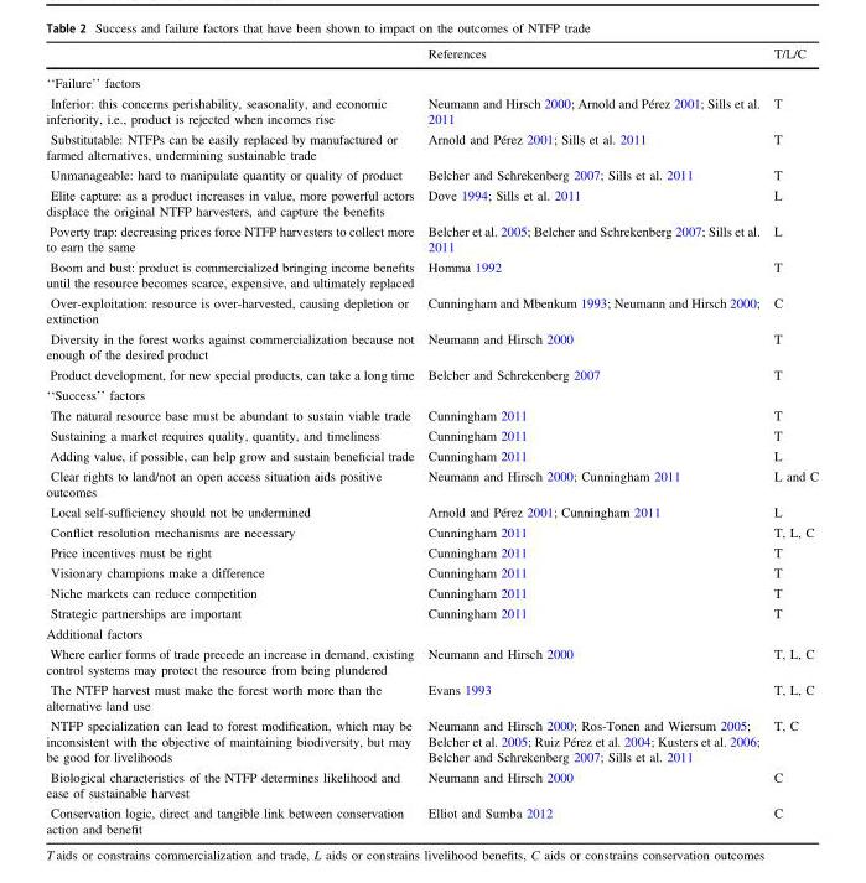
<table><thead><tr><td></td><td>References</td><td>T/L/C</td></tr></thead><tbody><tr><td colspan="3">‘‘Failure’’ factors</td></tr><tr><td>Inferior: this concerns perishability, seasonality, and economic inferiority, i.e., product is rejected when incomes rise</td><td>Neumann and Hirsch 2000; Arnold and Pérez 2001; Sills et al. 2011</td><td>T</td></tr><tr><td>Substitutable: NTFPs can be easily replaced by manufactured or farmed alternatives, undermining sustainable trade</td><td>Arnold and Pérez 2001; Sills et al. 2011</td><td>T</td></tr><tr><td>Unmanageable: hard to manipulate quantity or quality of product</td><td>Belcher and Schrekenberg 2007; Sills et al. 2011</td><td>T</td></tr><tr><td>Elite capture: as a product increases in value, more powerful actors displace the original NTFP harvesters, and capture the benefits</td><td>Dove 1994; Sills et al. 2011</td><td>L</td></tr><tr><td>Poverty trap: decreasing prices force NTFP harvesters to collect more to earn the same</td><td>Belcher et al. 2005; Belcher and Schrekenberg 2007; Sills et al. 2011</td><td>L</td></tr><tr><td>Boom and bust: product is commercialized bringing income benefits until the resource becomes scarce, expensive, and ultimately replaced</td><td>Homma 1992</td><td>T</td></tr><tr><td>Over-exploitation: resource is over-harvested, causing depletion or extinction</td><td>Cunningham and Mbenkum 1993; Neumann and Hirsch 2000;</td><td>C</td></tr><tr><td>Diversity in the forest works against commercialization because not enough of the desired product</td><td>Neumann and Hirsch 2000</td><td>T</td></tr><tr><td>Product development, for new special products, can take a long time</td><td>Belcher and Schrekenberg 2007</td><td>T</td></tr><tr><td colspan="3">‘‘Success’’ factors</td></tr><tr><td>The natural resource base must be abundant to sustain viable trade</td><td>Cunningham 2011</td><td>T</td></tr><tr><td>Sustaining a market requires quality, quantity, and timeliness</td><td>Cunningham 2011</td><td>T</td></tr><tr><td>Adding value, if possible, can help grow and sustain beneficial trade</td><td>Cunningham 2011</td><td>L</td></tr><tr><td>Clear rights to land/not an open access situation aids positive outcomes</td><td>Neumann and Hirsch 2000; Cunningham 2011</td><td>L and C</td></tr><tr><td>Local self-sufficiency should not be undermined</td><td>Arnold and Pérez 2001; Cunningham 2011</td><td>L</td></tr><tr><td>Conflict resolution mechanisms are necessary</td><td>Cunningham 2011</td><td>T, L, C</td></tr><tr><td>Price incentives must be right</td><td>Cunningham 2011</td><td>T</td></tr><tr><td>Visionary champions make a difference</td><td>Cunningham 2011</td><td>T</td></tr><tr><td>Niche markets can reduce competition</td><td>Cunningham 2011</td><td>T</td></tr><tr><td>Strategic partnerships are important</td><td>Cunningham 2011</td><td>T</td></tr><tr><td colspan="3">Additional factors</td></tr><tr><td>Where earlier forms of trade precede an increase in demand, existing control systems may protect the resource from being plundered</td><td>Neumann and Hirsch 2000</td><td>T, L, C</td></tr><tr><td>The NTFP harvest must make the forest worth more than the alternative land use</td><td>Evans 1993</td><td>T, L, C</td></tr><tr><td>NTFP specialization can lead to forest modification, which may be inconsistent with the objective of maintaining biodiversity, but may be good for livelihoods</td><td>Neumann and Hirsch 2000; Ros-Tonen and Wiersum 2005; Belcher et al. 2005; Ruiz Pérez et al. 2004; Kusters et al. 2006; Belcher and Schrekenberg 2007; Sills et al. 2011</td><td>T, C</td></tr><tr><td>Biological characteristics of the NTFP determines likelihood and ease of sustainable harvest</td><td>Neumann and Hirsch 2000</td><td>C</td></tr><tr><td>Conservation logic, direct and tangible link between conservation action and benefit</td><td>Elliot and Sumba 2012</td><td>C</td></tr></tbody></table>